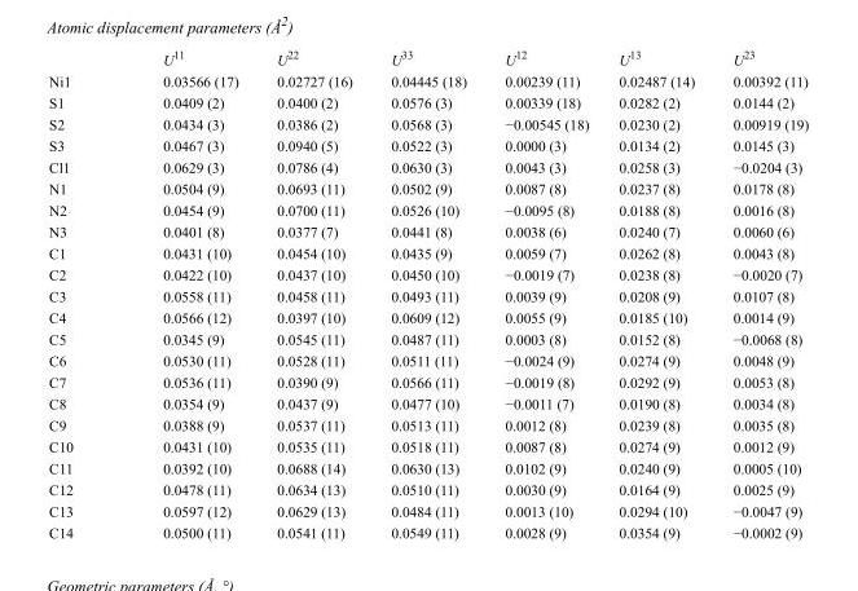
<table><thead><tr><td></td><td>U<sup>11</sup></td><td>U<sup>22</sup></td><td>U<sup>33</sup></td><td>U<sup>12</sup></td><td>U<sup>13</sup></td><td>U<sup>23</sup></td></tr></thead><tbody><tr><td>Ni1</td><td>0.03566 (17)</td><td>0.02727 (16)</td><td>0.04445 (18)</td><td>0.00239 (11)</td><td>0.02487 (14)</td><td>0.00392 (11)</td></tr><tr><td>S1</td><td>0.0409 (2)</td><td>0.0400 (2)</td><td>0.0576 (3)</td><td>0.00339 (18)</td><td>0.0282 (2)</td><td>0.0144 (2)</td></tr><tr><td>S2</td><td>0.0434 (3)</td><td>0.0386 (2)</td><td>0.0568 (3)</td><td>−0.00545 (18)</td><td>0.0230 (2)</td><td>0.00919 (19)</td></tr><tr><td>S3</td><td>0.0467 (3)</td><td>0.0940 (5)</td><td>0.0522 (3)</td><td>0.0000 (3)</td><td>0.0134 (2)</td><td>0.0145 (3)</td></tr><tr><td>Cl1</td><td>0.0629 (3)</td><td>0.0786 (4)</td><td>0.0630 (3)</td><td>0.0043 (3)</td><td>0.0258 (3)</td><td>−0.0204 (3)</td></tr><tr><td>N1</td><td>0.0504 (9)</td><td>0.0693 (11)</td><td>0.0502 (9)</td><td>0.0087 (8)</td><td>0.0237 (8)</td><td>0.0178 (8)</td></tr><tr><td>N2</td><td>0.0454 (9)</td><td>0.0700 (11)</td><td>0.0526 (10)</td><td>−0.0095 (8)</td><td>0.0188 (8)</td><td>0.0016 (8)</td></tr><tr><td>N3</td><td>0.0401 (8)</td><td>0.0377 (7)</td><td>0.0441 (8)</td><td>0.0038 (6)</td><td>0.0240 (7)</td><td>0.0060 (6)</td></tr><tr><td>C1</td><td>0.0431 (10)</td><td>0.0454 (10)</td><td>0.0435 (9)</td><td>0.0059 (7)</td><td>0.0262 (8)</td><td>0.0043 (8)</td></tr><tr><td>C2</td><td>0.0422 (10)</td><td>0.0437 (10)</td><td>0.0450 (10)</td><td>−0.0019 (7)</td><td>0.0238 (8)</td><td>−0.0020 (7)</td></tr><tr><td>C3</td><td>0.0558 (11)</td><td>0.0458 (11)</td><td>0.0493 (11)</td><td>0.0039 (9)</td><td>0.0208 (9)</td><td>0.0107 (8)</td></tr><tr><td>C4</td><td>0.0566 (12)</td><td>0.0397 (10)</td><td>0.0609 (12)</td><td>0.0055 (9)</td><td>0.0185 (10)</td><td>0.0014 (9)</td></tr><tr><td>C5</td><td>0.0345 (9)</td><td>0.0545 (11)</td><td>0.0487 (11)</td><td>0.0003 (8)</td><td>0.0152 (8)</td><td>−0.0068 (8)</td></tr><tr><td>C6</td><td>0.0530 (11)</td><td>0.0528 (11)</td><td>0.0511 (11)</td><td>−0.0024 (9)</td><td>0.0274 (9)</td><td>0.0048 (9)</td></tr><tr><td>C7</td><td>0.0536 (11)</td><td>0.0390 (9)</td><td>0.0566 (11)</td><td>−0.0019 (8)</td><td>0.0292 (9)</td><td>0.0053 (8)</td></tr><tr><td>C8</td><td>0.0354 (9)</td><td>0.0437 (9)</td><td>0.0477 (10)</td><td>−0.0011 (7)</td><td>0.0190 (8)</td><td>0.0034 (8)</td></tr><tr><td>C9</td><td>0.0388 (9)</td><td>0.0537 (11)</td><td>0.0513 (11)</td><td>0.0012 (8)</td><td>0.0239 (8)</td><td>0.0035 (8)</td></tr><tr><td>C10</td><td>0.0431 (10)</td><td>0.0535 (11)</td><td>0.0518 (11)</td><td>0.0087 (8)</td><td>0.0274 (9)</td><td>0.0012 (9)</td></tr><tr><td>C11</td><td>0.0392 (10)</td><td>0.0688 (14)</td><td>0.0630 (13)</td><td>0.0102 (9)</td><td>0.0240 (9)</td><td>0.0005 (10)</td></tr><tr><td>C12</td><td>0.0478 (11)</td><td>0.0634 (13)</td><td>0.0510 (11)</td><td>0.0030 (9)</td><td>0.0164 (9)</td><td>0.0025 (9)</td></tr><tr><td>C13</td><td>0.0597 (12)</td><td>0.0629 (13)</td><td>0.0484 (11)</td><td>0.0013 (10)</td><td>0.0294 (10)</td><td>−0.0047 (9)</td></tr><tr><td>C14</td><td>0.0500 (11)</td><td>0.0541 (11)</td><td>0.0549 (11)</td><td>0.0028 (9)</td><td>0.0354 (9)</td><td>−0.0002 (9)</td></tr></tbody></table>